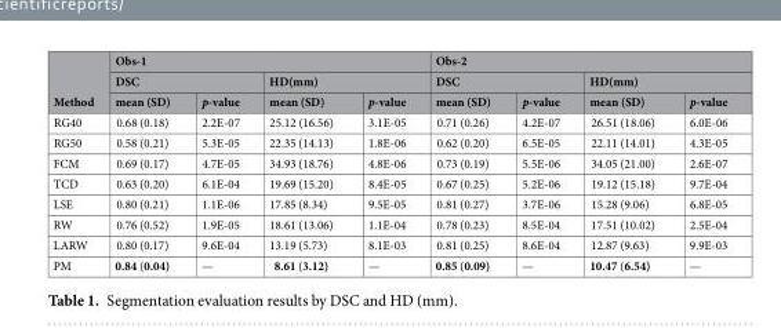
<table><thead><tr><td rowspan="3">Method</td><td colspan="4">Obs-1</td><td colspan="4">Obs-2</td></tr><tr><td colspan="2">DSC</td><td colspan="2">HD(mm)</td><td colspan="2">DSC</td><td colspan="2">HD(mm)</td></tr><tr><td>mean (SD)</td><td>p-value</td><td>mean (SD)</td><td>p-value</td><td>mean (SD)</td><td>p-value</td><td>mean (SD)</td><td>p-value</td></tr></thead><tbody><tr><td>RG40</td><td>0.68 (0.18)</td><td>2.2E-07</td><td>25.12 (16.56)</td><td>3.1E-05</td><td>0.71 (0.26)</td><td>4.2E-07</td><td>26.51 (18.06)</td><td>6.0E-06</td></tr><tr><td>RG50</td><td>0.58 (0.21)</td><td>5.3E-05</td><td>22.35 (14.13)</td><td>1.8E-06</td><td>0.62 (0.20)</td><td>6.5E-05</td><td>22.11 (14.01)</td><td>4.3E-05</td></tr><tr><td>FCM</td><td>0.69 (0.17)</td><td>4.7E-05</td><td>34.93 (18.76)</td><td>4.8E-06</td><td>0.73 (0.19)</td><td>5.5E-06</td><td>34.05 (21.00)</td><td>2.6E-07</td></tr><tr><td>TCD</td><td>0.63 (0.20)</td><td>6.1E-04</td><td>19.69 (15.20)</td><td>8.4E-05</td><td>0.67 (0.25)</td><td>5.2E-06</td><td>19.12 (15.18)</td><td>9.7E-04</td></tr><tr><td>LSE</td><td>0.80 (0.21)</td><td>1.1E-06</td><td>17.85 (8.34)</td><td>9.5E-05</td><td>0.81 (0.27)</td><td>3.7E-06</td><td>15.28 (9.06)</td><td>6.8E-05</td></tr><tr><td>RW</td><td>0.76 (0.52)</td><td>1.9E-05</td><td>18.61 (13.06)</td><td>1.1E-04</td><td>0.78 (0.23)</td><td>8.5E-04</td><td>17.51 (10.02)</td><td>2.5E-04</td></tr><tr><td>LARW</td><td>0.80 (0.17)</td><td>9.6E-04</td><td>13.19 (5.73)</td><td>8.1E-03</td><td>0.81 (0.25)</td><td>8.6E-04</td><td>12.87 (9.63)</td><td>9.9E-03</td></tr><tr><td>PM</td><td>0.84 (0.04)</td><td>—</td><td>8.61 (3.12)</td><td>—</td><td>0.85 (0.09)</td><td>—</td><td>10.47 (6.54)</td><td>—</td></tr></tbody></table>